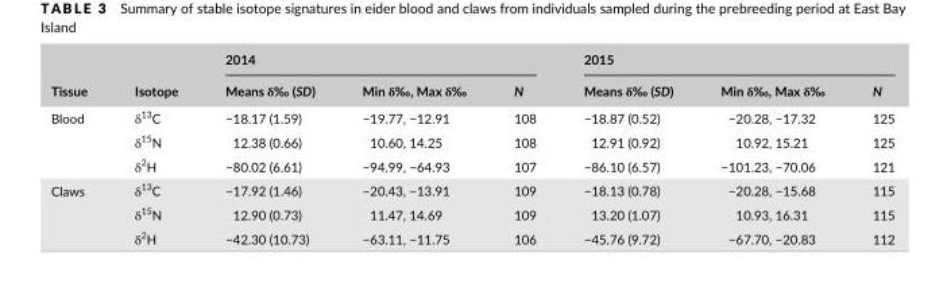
<table><thead><tr><td rowspan="2">Tissue</td><td rowspan="2">Isotope</td><td colspan="3">2014</td><td colspan="3">2015</td></tr><tr><td>Means δ‰ (SD)</td><td>Min δ‰, Max δ‰</td><td>N</td><td>Means δ‰ (SD)</td><td>Min δ‰, Max δ‰</td><td>N</td></tr></thead><tbody><tr><td rowspan="3">Blood</td><td>δ<sup>13</sup>C</td><td>−18.17 (1.59)</td><td>−19.77, −12.91</td><td>108</td><td>−18.87 (0.52)</td><td>−20.28, −17.32</td><td>125</td></tr><tr><td>δ<sup>15</sup>N</td><td>12.38 (0.66)</td><td>10.60, 14.25</td><td>108</td><td>12.91 (0.92)</td><td>10.92, 15.21</td><td>125</td></tr><tr><td>δ<sup>2</sup>H</td><td>−80.02 (6.61)</td><td>−94.99, −64.93</td><td>107</td><td>−86.10 (6.57)</td><td>−101.23, −70.06</td><td>121</td></tr><tr><td rowspan="3">Claws</td><td>δ<sup>13</sup>C</td><td>−17.92 (1.46)</td><td>−20.43, −13.91</td><td>109</td><td>−18.13 (0.78)</td><td>−20.28, −15.68</td><td>115</td></tr><tr><td>δ<sup>15</sup>N</td><td>12.90 (0.73)</td><td>11.47, 14.69</td><td>109</td><td>13.20 (1.07)</td><td>10.93, 16.31</td><td>115</td></tr><tr><td>δ<sup>2</sup>H</td><td>−42.30 (10.73)</td><td>−63.11, −11.75</td><td>106</td><td>−45.76 (9.72)</td><td>−67.70, −20.83</td><td>112</td></tr></tbody></table>